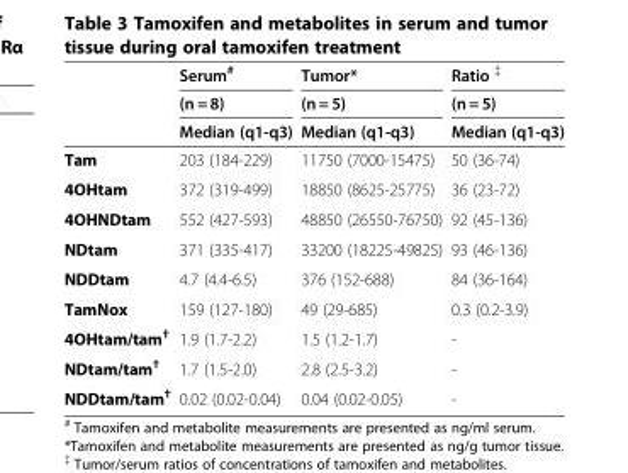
<table><thead><tr><td rowspan="3"></td><td rowspan="3">Serum<sup>#</sup> (n = 8) Median (q1-q3)</td><td rowspan="3">Tumor* (n = 5) Median (q1-q3)</td><td rowspan="3">Ratio <sup>‡</sup> (n = 5) Median (q1-q3)</td></tr><tr></tr><tr></tr></thead><tbody><tr><td>Tam</td><td>203 (184-229)</td><td>11750 (7000-15475)</td><td>50 (36-74)</td></tr><tr><td>4OHtam</td><td>372 (319-499)</td><td>18850 (8625-25775)</td><td>36 (23-72)</td></tr><tr><td>4OHNDtam</td><td>552 (427-593)</td><td>48850 (26550-76750)</td><td>92 (45-136)</td></tr><tr><td>NDtam</td><td>371 (335-417)</td><td>33200 (18225-49825)</td><td>93 (46-136)</td></tr><tr><td>NDDtam</td><td>4.7 (4.4-6.5)</td><td>376 (152-688)</td><td>84 (36-164)</td></tr><tr><td>TamNox</td><td>159 (127-180)</td><td>49 (29-685)</td><td>0.3 (0.2-3.9)</td></tr><tr><td>4OHtam/tam<sup>†</sup></td><td>1.9 (1.7-2.2)</td><td>1.5 (1.2-1.7)</td><td>-</td></tr><tr><td>NDtam/tam<sup>†</sup></td><td>1.7 (1.5-2.0)</td><td>2.8 (2.5-3.2)</td><td>-</td></tr><tr><td>NDDtam/tam<sup>†</sup></td><td>0.02 (0.02-0.04)</td><td>0.04 (0.02-0.05)</td><td>-</td></tr></tbody></table>